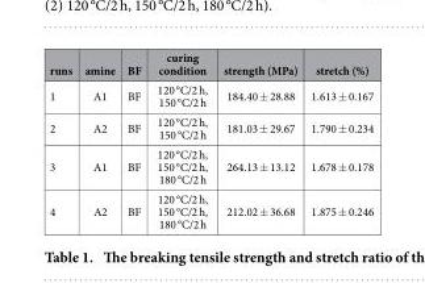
<table><thead><tr><td>runs</td><td>amine</td><td>BF</td><td>curing condition</td><td>strength (MPa)</td><td>stretch (%)</td></tr></thead><tbody><tr><td>1</td><td>A1</td><td>BF</td><td>120 °C/2 h, 150 °C/2 h</td><td>184.40 ± 28.88</td><td>1.613 ± 0.167</td></tr><tr><td>2</td><td>A2</td><td>BF</td><td>120 °C/2 h, 150 °C/2 h</td><td>181.03 ± 29.67</td><td>1.790 ± 0.234</td></tr><tr><td>3</td><td>A1</td><td>BF</td><td>120 °C/2 h, 150 °C/2 h, 180 °C/2 h</td><td>264.13 ± 13.12</td><td>1.678 ± 0.178</td></tr><tr><td>4</td><td>A2</td><td>BF</td><td>120 °C/2 h, 150 °C/2 h, 180 °C/2 h</td><td>212.02 ± 36.68</td><td>1.875 ± 0.246</td></tr></tbody></table>